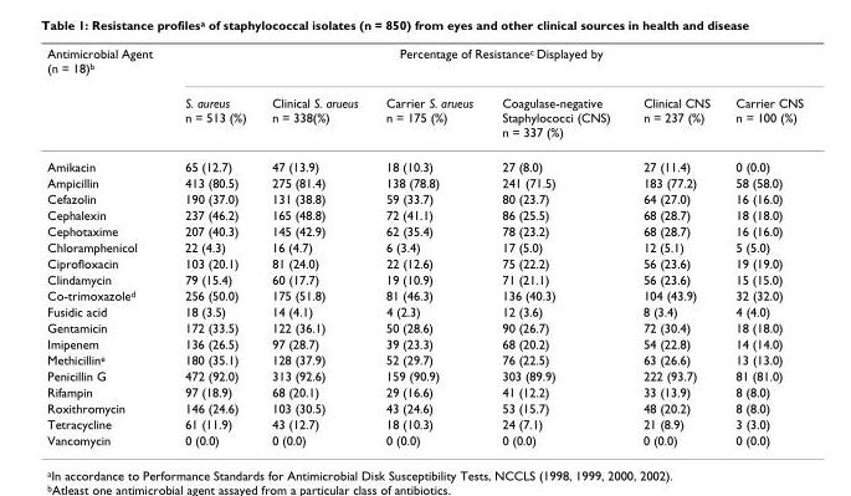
<table><thead><tr><td rowspan="2">Antimicrobial Agent (n = 18)<sup>b</sup></td><td colspan="6">Percentage of Resistance<sup>c</sup> Displayed by</td></tr><tr><td>S. aureus n = 513 (%)</td><td>Clinical S. arueus n = 338(%)</td><td>Carrier S. arueus n = 175 (%)</td><td>Coagulase-negative Staphylococci (CNS) n = 337 (%)</td><td>Clinical CNS n = 237 (%)</td><td>Carrier CNS n = 100 (%)</td></tr></thead><tbody><tr><td>Amikacin</td><td>65 (12.7)</td><td>47 (13.9)</td><td>18 (10.3)</td><td>27 (8.0)</td><td>27 (11.4)</td><td>0 (0.0)</td></tr><tr><td>Ampicillin</td><td>413 (80.5)</td><td>275 (81.4)</td><td>138 (78.8)</td><td>241 (71.5)</td><td>183 (77.2)</td><td>58 (58.0)</td></tr><tr><td>Cefazolin</td><td>190 (37.0)</td><td>131 (38.8)</td><td>59 (33.7)</td><td>80 (23.7)</td><td>64 (27.0)</td><td>16 (16.0)</td></tr><tr><td>Cephalexin</td><td>237 (46.2)</td><td>165 (48.8)</td><td>72 (41.1)</td><td>86 (25.5)</td><td>68 (28.7)</td><td>18 (18.0)</td></tr><tr><td>Cephotaxime</td><td>207 (40.3)</td><td>145 (42.9)</td><td>62 (35.4)</td><td>78 (23.2)</td><td>68 (28.7)</td><td>16 (16.0)</td></tr><tr><td>Chloramphenicol</td><td>22 (4.3)</td><td>16 (4.7)</td><td>6 (3.4)</td><td>17 (5.0)</td><td>12 (5.1)</td><td>5 (5.0)</td></tr><tr><td>Ciprofloxacin</td><td>103 (20.1)</td><td>81 (24.0)</td><td>22 (12.6)</td><td>75 (22.2)</td><td>56 (23.6)</td><td>19 (19.0)</td></tr><tr><td>Clindamycin</td><td>79 (15.4)</td><td>60 (17.7)</td><td>19 (10.9)</td><td>71 (21.1)</td><td>56 (23.6)</td><td>15 (15.0)</td></tr><tr><td>Co-trimoxazole<sup>d</sup></td><td>256 (50.0)</td><td>175 (51.8)</td><td>81 (46.3)</td><td>136 (40.3)</td><td>104 (43.9)</td><td>32 (32.0)</td></tr><tr><td>Fusidic acid</td><td>18 (3.5)</td><td>14 (4.1)</td><td>4 (2.3)</td><td>12 (3.6)</td><td>8 (3.4)</td><td>4 (4.0)</td></tr><tr><td>Gentamicin</td><td>172 (33.5)</td><td>122 (36.1)</td><td>50 (28.6)</td><td>90 (26.7)</td><td>72 (30.4)</td><td>18 (18.0)</td></tr><tr><td>Imipenem</td><td>136 (26.5)</td><td>97 (28.7)</td><td>39 (23.3)</td><td>68 (20.2)</td><td>54 (22.8)</td><td>14 (14.0)</td></tr><tr><td>Methicillin<sup>e</sup></td><td>180 (35.1)</td><td>128 (37.9)</td><td>52 (29.7)</td><td>76 (22.5)</td><td>63 (26.6)</td><td>13 (13.0)</td></tr><tr><td>Penicillin G</td><td>472 (92.0)</td><td>313 (92.6)</td><td>159 (90.9)</td><td>303 (89.9)</td><td>222 (93.7)</td><td>81 (81.0)</td></tr><tr><td>Rifampin</td><td>97 (18.9)</td><td>68 (20.1)</td><td>29 (16.6)</td><td>41 (12.2)</td><td>33 (13.9)</td><td>8 (8.0)</td></tr><tr><td>Roxithromycin</td><td>146 (24.6)</td><td>103 (30.5)</td><td>43 (24.6)</td><td>53 (15.7)</td><td>48 (20.2)</td><td>8 (8.0)</td></tr><tr><td>Tetracycline</td><td>61 (11.9)</td><td>43 (12.7)</td><td>18 (10.3)</td><td>24 (7.1)</td><td>21 (8.9)</td><td>3 (3.0)</td></tr><tr><td>Vancomycin</td><td>0 (0.0)</td><td>0 (0.0)</td><td>0 (0.0)</td><td>0 (0.0)</td><td>0 (0.0)</td><td>0 (0.0)</td></tr></tbody></table>